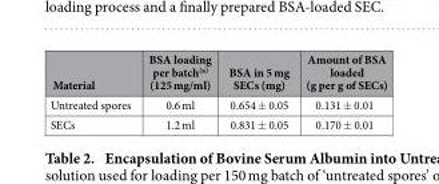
<table><thead><tr><td>Material</td><td>BSA loading per batch(a) (125 mg/ml)</td><td>BSA in 5 mg SECs (mg)</td><td>Amount of BSA loaded (g per g of SECs)</td></tr></thead><tbody><tr><td>Untreated spores</td><td>0.6 ml</td><td>0.654 ± 0.05</td><td>0.131 ± 0.01</td></tr><tr><td>SECs</td><td>1.2 ml</td><td>0.831 ± 0.05</td><td>0.170 ± 0.01</td></tr></tbody></table>